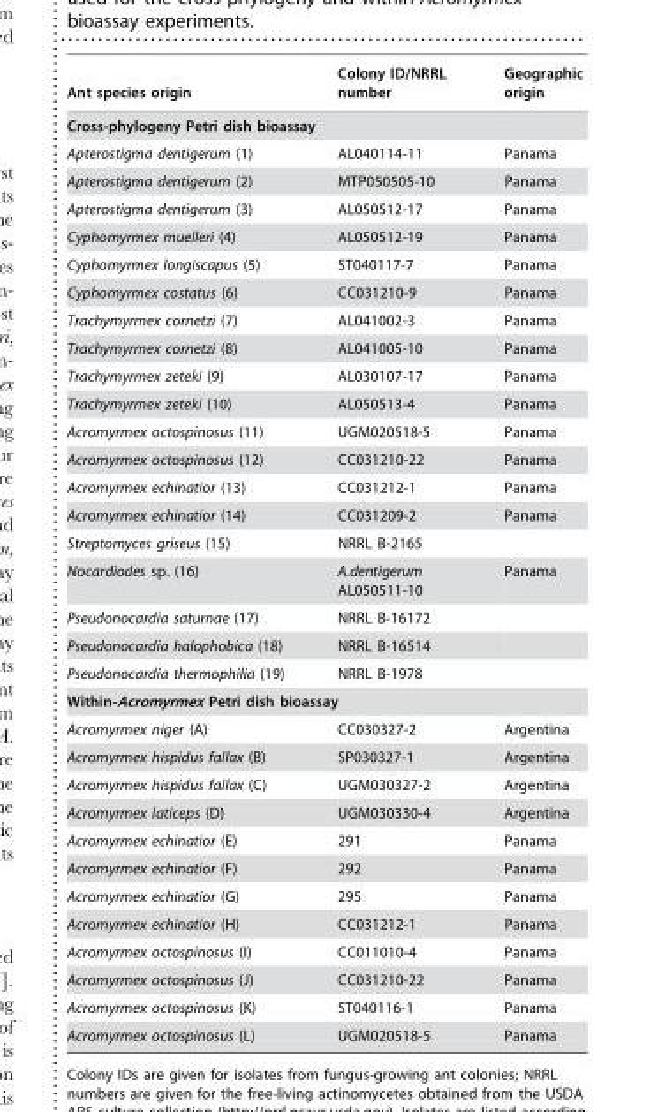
<table><thead><tr><td>Ant species origin</td><td>Colony ID/NRRL number</td><td>Geographic origin</td></tr></thead><tbody><tr><td colspan="3">Cross-phylogeny Petri dish bioassay</td></tr><tr><td>Apterostigma dentigerum (1)</td><td>AL040114-11</td><td>Panama</td></tr><tr><td>Apterostigma dentigerum (2)</td><td>MTP050505-10</td><td>Panama</td></tr><tr><td>Apterostigma dentigerum (3)</td><td>AL050512-17</td><td>Panama</td></tr><tr><td>Cyphomyrmex muelleri (4)</td><td>AL050512-19</td><td>Panama</td></tr><tr><td>Cyphomyrmex longiscapus (5)</td><td>ST040117-7</td><td>Panama</td></tr><tr><td>Cyphomyrmex costatus (6)</td><td>CC031210-9</td><td>Panama</td></tr><tr><td>Trachymyrmex cornetzi (7)</td><td>AL041002-3</td><td>Panama</td></tr><tr><td>Trachymyrmex cornetzi (8)</td><td>AL041005-10</td><td>Panama</td></tr><tr><td>Trachymyrmex zeteki (9)</td><td>AL030107-17</td><td>Panama</td></tr><tr><td>Trachymyrmex zeteki (10)</td><td>AL050513-4</td><td>Panama</td></tr><tr><td>Acromyrmex octospinosus (11)</td><td>UGM020518-5</td><td>Panama</td></tr><tr><td>Acromyrmex octospinosus (12)</td><td>CC031210-22</td><td>Panama</td></tr><tr><td>Acromyrmex echinatior (13)</td><td>CC031212-1</td><td>Panama</td></tr><tr><td>Acromyrmex echinatior (14)</td><td>CC031209-2</td><td>Panama</td></tr><tr><td>Streptomyces griseus (15)</td><td>NRRL B-2165</td><td></td></tr><tr><td>Nocardiodes sp. (16)</td><td>A.dentigerum AL050511-10</td><td>Panama</td></tr><tr><td>Pseudonocardia saturnae (17)</td><td>NRRL B-16172</td><td></td></tr><tr><td>Pseudonocardia halophobica (18)</td><td>NRRL B-16514</td><td></td></tr><tr><td>Pseudonocardia thermophilia (19)</td><td>NRRL B-1978</td><td></td></tr><tr><td colspan="3">Within-Acromyrmex Petri dish bioassay</td></tr><tr><td>Acromyrmex niger (A)</td><td>CC030327-2</td><td>Argentina</td></tr><tr><td>Acromyrmex hispidus fallax (B)</td><td>SP030327-1</td><td>Argentina</td></tr><tr><td>Acromyrmex hispidus fallax (C)</td><td>UGM030327-2</td><td>Argentina</td></tr><tr><td>Acromyrmex laticeps (D)</td><td>UGM030330-4</td><td>Argentina</td></tr><tr><td>Acromyrmex echinatior (E)</td><td>291</td><td>Panama</td></tr><tr><td>Acromyrmex echinatior (F)</td><td>292</td><td>Panama</td></tr><tr><td>Acromyrmex echinatior (G)</td><td>295</td><td>Panama</td></tr><tr><td>Acromyrmex echinatior (H)</td><td>CC031212-1</td><td>Panama</td></tr><tr><td>Acromyrmex octospinosus (I)</td><td>CC011010-4</td><td>Panama</td></tr><tr><td>Acromyrmex octospinosus (J)</td><td>CC031210-22</td><td>Panama</td></tr><tr><td>Acromyrmex octospinosus (K)</td><td>ST040116-1</td><td>Panama</td></tr><tr><td>Acromyrmex octospinosus (L)</td><td>UGM020518-5</td><td>Panama</td></tr></tbody></table>